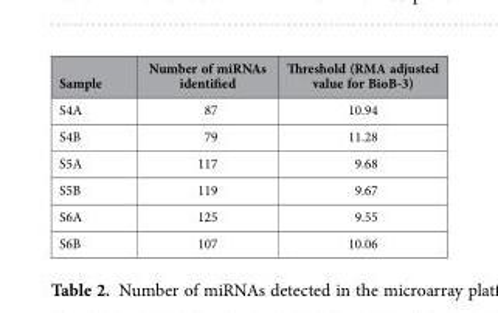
<table><thead><tr><td>Sample</td><td>Number of miRNAs identified</td><td>Threshold (RMA adjusted value for BioB-3)</td></tr></thead><tbody><tr><td>S4A</td><td>87</td><td>10.94</td></tr><tr><td>S4B</td><td>79</td><td>11.28</td></tr><tr><td>S5A</td><td>117</td><td>9.68</td></tr><tr><td>S5B</td><td>119</td><td>9.67</td></tr><tr><td>S6A</td><td>125</td><td>9.55</td></tr><tr><td>S6B</td><td>107</td><td>10.06</td></tr></tbody></table>